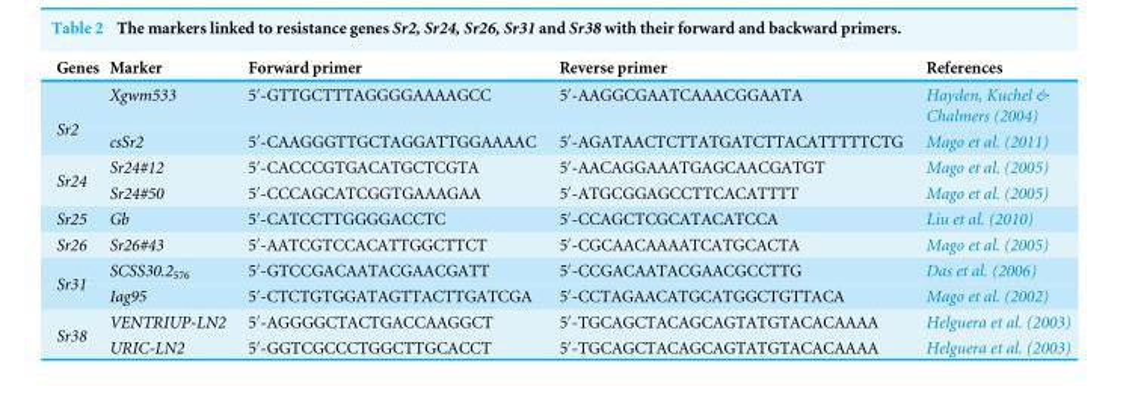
<table><thead><tr><td>Genes</td><td>Marker</td><td>Forward primer</td><td>Reverse primer</td><td>References</td></tr></thead><tbody><tr><td rowspan="2">Sr2</td><td>Xgwm533</td><td>5′-GTTGCTTTAGGGGAAAAGCC</td><td>5′-AAGGCGAATCAAACGGAATA</td><td>Hayden, Kuchel &amp; Chalmers (2004)</td></tr><tr><td>csSr2</td><td>5′-CAAGGGTTGCTAGGATTGGAAAAC</td><td>5′-AGATAACTCTTATGATCTTACATTTTTCTG</td><td>Mago et al. (2011)</td></tr><tr><td rowspan="2">Sr24</td><td>Sr24#12</td><td>5′-CACCCGTGACATGCTCGTA</td><td>5′-AACAGGAAATGAGCAACGATGT</td><td>Mago et al. (2005)</td></tr><tr><td>Sr24#50</td><td>5′-CCCAGCATCGGTGAAAGAA</td><td>5′-ATGCGGAGCCTTCACATTTT</td><td>Mago et al. (2005)</td></tr><tr><td>Sr25</td><td>Gb</td><td>5′-CATCCTTGGGGACCTC</td><td>5′-CCAGCTCGCATACATCCA</td><td>Liu et al. (2010)</td></tr><tr><td>Sr26</td><td>Sr26#43</td><td>5′-AATCGTCCACATTGGCTTCT</td><td>5′-CGCAACAAAATCATGCACTA</td><td>Mago et al. (2005)</td></tr><tr><td rowspan="2">Sr31</td><td>SCSS30.2<sub>576</sub></td><td>5′-GTCCGACAATACGAACGATT</td><td>5′-CCGACAATACGAACGCCTTG</td><td>Das et al. (2006)</td></tr><tr><td>Iag95</td><td>5′-CTCTGTGGATAGTTACTTGATCGA</td><td>5′-CCTAGAACATGCATGGCTGTTACA</td><td>Mago et al. (2002)</td></tr><tr><td rowspan="2">Sr38</td><td>VENTRIUP-LN2</td><td>5′-AGGGGCTACTGACCAAGGCT</td><td>5′-TGCAGCTACAGCAGTATGTACACAAAA</td><td>Helguera et al. (2003)</td></tr><tr><td>URIC-LN2</td><td>5′-GGTCGCCCTGGCTTGCACCT</td><td>5′-TGCAGCTACAGCAGTATGTACACAAAA</td><td>Helguera et al. (2003)</td></tr></tbody></table>